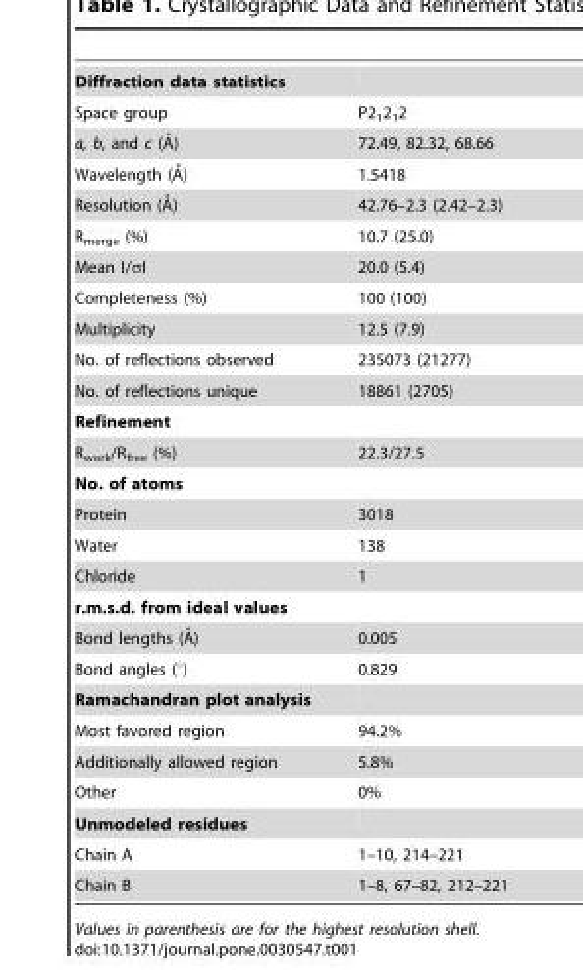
<table><tbody><tr><td colspan="2">Diffraction data statistics</td></tr><tr><td>Space group</td><td>P2<sub>1</sub>2<sub>1</sub>2</td></tr><tr><td>a, b, and c (A˚)</td><td>72.49, 82.32, 68.66</td></tr><tr><td>Wavelength (A˚)</td><td>1.5418</td></tr><tr><td>Resolution (A˚)</td><td>42.76–2.3 (2.42–2.3)</td></tr><tr><td>R<sub>merge</sub> (%)</td><td>10.7 (25.0)</td></tr><tr><td>Mean I/σI</td><td>20.0 (5.4)</td></tr><tr><td>Completeness (%)</td><td>100 (100)</td></tr><tr><td>Multiplicity</td><td>12.5 (7.9)</td></tr><tr><td>No. of reflections observed</td><td>235073 (21277)</td></tr><tr><td>No. of reflections unique</td><td>18861 (2705)</td></tr><tr><td colspan="2">Refinement</td></tr><tr><td>R<sub>work</sub>/R<sub>free</sub> (%)</td><td>22.3/27.5</td></tr><tr><td colspan="2">No. of atoms</td></tr><tr><td>Protein</td><td>3018</td></tr><tr><td>Water</td><td>138</td></tr><tr><td>Chloride</td><td>1</td></tr><tr><td colspan="2">r.m.s.d. from ideal values</td></tr><tr><td>Bond lengths (A˚)</td><td>0.005</td></tr><tr><td>Bond angles (°)</td><td>0.829</td></tr><tr><td colspan="2">Ramachandran plot analysis</td></tr><tr><td>Most favored region</td><td>94.2%</td></tr><tr><td>Additionally allowed region</td><td>5.8%</td></tr><tr><td>Other</td><td>0%</td></tr><tr><td colspan="2">Unmodeled residues</td></tr><tr><td>Chain A</td><td>1–10, 214–221</td></tr><tr><td>Chain B</td><td>1–8, 67–82, 212–221</td></tr></tbody></table>